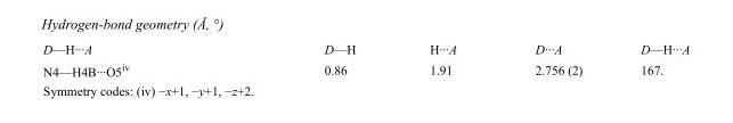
<table><tbody><tr><td>D—H···A</td><td>D—H</td><td>H···A</td><td>D···A</td><td>D—H···A</td></tr><tr><td>N4—H4B···O5<sup>iv</sup></td><td>0.86</td><td>1.91</td><td>2.756 (2)</td><td>167.</td></tr></tbody></table>